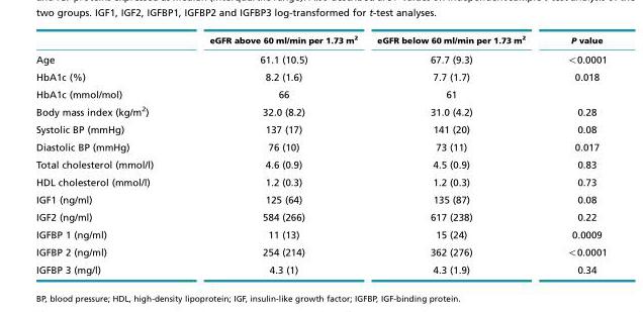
<table><thead><tr><td></td><td>eGFR above 60 ml/min per 1.73 m<sup>2</sup></td><td>eGFR below 60 ml/min per 1.73 m<sup>2</sup></td><td>P value</td></tr></thead><tbody><tr><td>Age</td><td>61.1 (10.5)</td><td>67.7 (9.3)</td><td>&lt;0.0001</td></tr><tr><td>HbA1c (%)</td><td>8.2 (1.6)</td><td>7.7 (1.7)</td><td>0.018</td></tr><tr><td>HbA1c (mmol/mol)</td><td>66</td><td>61</td><td></td></tr><tr><td>Body mass index (kg/m<sup>2</sup>)</td><td>32.0 (8.2)</td><td>31.0 (4.2)</td><td>0.28</td></tr><tr><td>Systolic BP (mmHg)</td><td>137 (17)</td><td>141 (20)</td><td>0.08</td></tr><tr><td>Diastolic BP (mmHg)</td><td>76 (10)</td><td>73 (11)</td><td>0.017</td></tr><tr><td>Total cholesterol (mmol/l)</td><td>4.6 (0.9)</td><td>4.5 (0.9)</td><td>0.83</td></tr><tr><td>HDL cholesterol (mmol/l)</td><td>1.2 (0.3)</td><td>1.2 (0.3)</td><td>0.73</td></tr><tr><td>IGF1 (ng/ml)</td><td>125 (64)</td><td>135 (87)</td><td>0.08</td></tr><tr><td>IGF2 (ng/ml)</td><td>584 (266)</td><td>617 (238)</td><td>0.22</td></tr><tr><td>IGFBP 1 (ng/ml)</td><td>11 (13)</td><td>15 (24)</td><td>0.0009</td></tr><tr><td>IGFBP 2 (ng/ml)</td><td>254 (214)</td><td>362 (276)</td><td>&lt;0.0001</td></tr><tr><td>IGFBP 3 (mg/l)</td><td>4.3 (1)</td><td>4.3 (1.9)</td><td>0.34</td></tr></tbody></table>